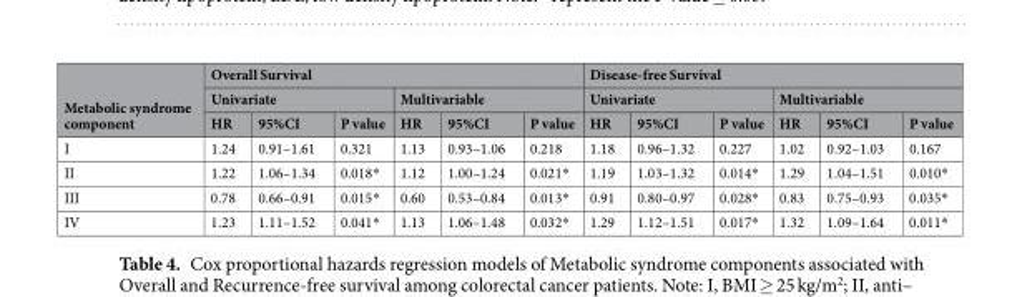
<table><thead><tr><td rowspan="3">Metabolic syndrome component</td><td colspan="6">Overall Survival</td><td colspan="6">Disease-free Survival</td></tr><tr><td colspan="3">Univariate</td><td colspan="3">Multivariable</td><td colspan="3">Univariate</td><td colspan="3">Multivariable</td></tr><tr><td>HR</td><td>95%CI</td><td>P value</td><td>HR</td><td>95%CI</td><td>P value</td><td>HR</td><td>95%CI</td><td>P value</td><td>HR</td><td>95%CI</td><td>P value</td></tr></thead><tbody><tr><td>I</td><td>1.24</td><td>0.91–1.61</td><td>0.321</td><td>1.13</td><td>0.93–1.06</td><td>0.218</td><td>1.18</td><td>0.96–1.32</td><td>0.227</td><td>1.02</td><td>0.92–1.03</td><td>0.167</td></tr><tr><td>II</td><td>1.22</td><td>1.06–1.34</td><td>0.018*</td><td>1.12</td><td>1.00–1.24</td><td>0.021*</td><td>1.19</td><td>1.03–1.32</td><td>0.014*</td><td>1.29</td><td>1.04–1.51</td><td>0.010*</td></tr><tr><td>III</td><td>0.78</td><td>0.66–0.91</td><td>0.015*</td><td>0.60</td><td>0.53–0.84</td><td>0.013*</td><td>0.91</td><td>0.80–0.97</td><td>0.028*</td><td>0.83</td><td>0.75–0.93</td><td>0.035*</td></tr><tr><td>IV</td><td>1.23</td><td>1.11–1.52</td><td>0.041*</td><td>1.13</td><td>1.06–1.48</td><td>0.032*</td><td>1.29</td><td>1.12–1.51</td><td>0.017*</td><td>1.32</td><td>1.09–1.64</td><td>0.011*</td></tr></tbody></table>